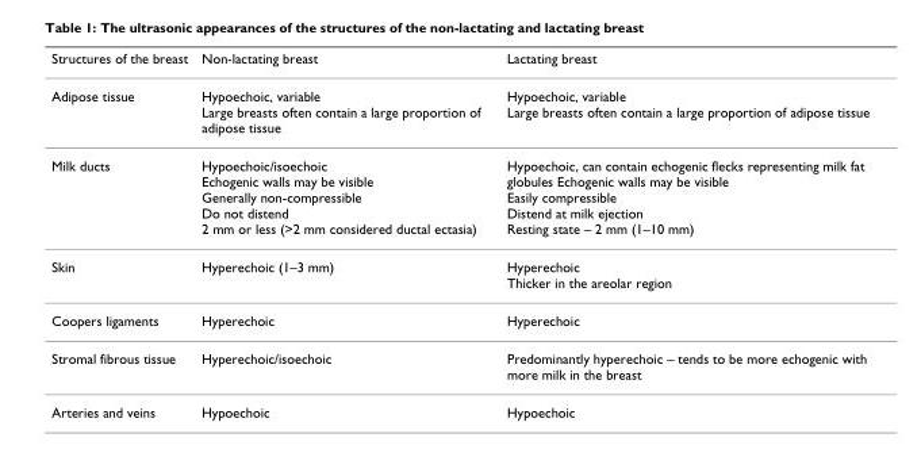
<table><thead><tr><td>Structures of the breast</td><td>Non-lactating breast</td><td>Lactating breast</td></tr></thead><tbody><tr><td>Adipose tissue</td><td>Hypoechoic, variable Large breasts often contain a large proportion of adipose tissue</td><td>Hypoechoic, variable Large breasts often contain a large proportion of adipose tissue</td></tr><tr><td>Milk ducts</td><td>Hypoechoic/isoechoic Echogenic walls may be visible Generally non-compressible Do not distend 2 mm or less (&gt;2 mm considered ductal ectasia)</td><td>Hypoechoic, can contain echogenic flecks representing milk fat globules Echogenic walls may be visible Easily compressible Distend at milk ejection Resting state – 2 mm (1–10 mm)</td></tr><tr><td>Skin</td><td>Hyperechoic (1–3 mm)</td><td>Hyperechoic Thicker in the areolar region</td></tr><tr><td>Coopers ligaments</td><td>Hyperechoic</td><td>Hyperechoic</td></tr><tr><td>Stromal fibrous tissue</td><td>Hyperechoic/isoechoic</td><td>Predominantly hyperechoic – tends to be more echogenic with more milk in the breast</td></tr><tr><td>Arteries and veins</td><td>Hypoechoic</td><td>Hypoechoic</td></tr></tbody></table>